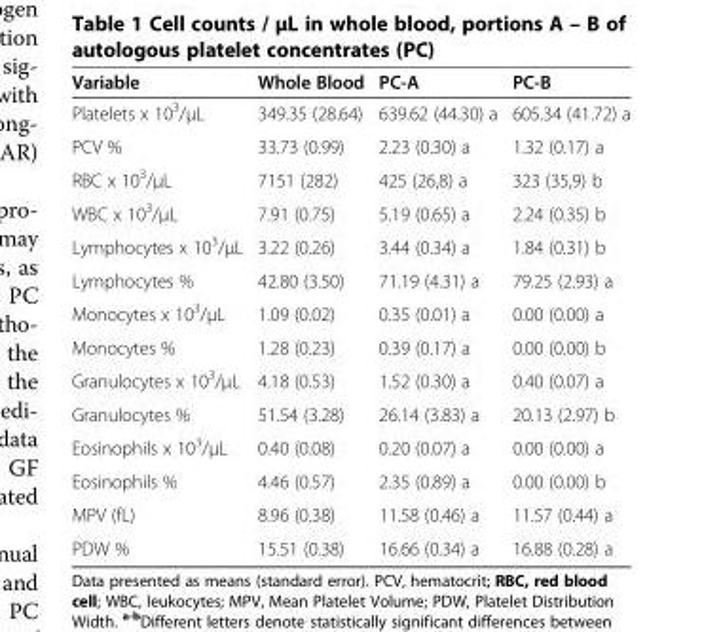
<table><thead><tr><td>Variable</td><td>Whole Blood</td><td>PC-A</td><td>PC-B</td></tr></thead><tbody><tr><td>Platelets x 10<sup>3</sup>/μL</td><td>349.35 (28.64)</td><td>639.62 (44.30) a</td><td>605.34 (41.72) a</td></tr><tr><td>PCV %</td><td>33.73 (0.99)</td><td>2.23 (0.30) a</td><td>1.32 (0.17) a</td></tr><tr><td>RBC x 10<sup>3</sup>/μL</td><td>7151 (282)</td><td>425 (26,8) a</td><td>323 (35,9) b</td></tr><tr><td>WBC x 10<sup>3</sup>/μL</td><td>7.91 (0.75)</td><td>5.19 (0.65) a</td><td>2.24 (0.35) b</td></tr><tr><td>Lymphocytes x 10<sup>3</sup>/μL</td><td>3.22 (0.26)</td><td>3.44 (0.34) a</td><td>1.84 (0.31) b</td></tr><tr><td>Lymphocytes %</td><td>42.80 (3.50)</td><td>71.19 (4.31) a</td><td>79.25 (2.93) a</td></tr><tr><td>Monocytes x 10<sup>3</sup>/μL</td><td>1.09 (0.02)</td><td>0.35 (0.01) a</td><td>0.00 (0.00) a</td></tr><tr><td>Monocytes %</td><td>1.28 (0.23)</td><td>0.39 (0.17) a</td><td>0.00 (0.00) b</td></tr><tr><td>Granulocytes x 10<sup>3</sup>/μL</td><td>4.18 (0.53)</td><td>1.52 (0.30) a</td><td>0.40 (0.07) a</td></tr><tr><td>Granulocytes %</td><td>51.54 (3.28)</td><td>26.14 (3.83) a</td><td>20.13 (2.97) b</td></tr><tr><td>Eosinophils x 10<sup>3</sup>/μL</td><td>0.40 (0.08)</td><td>0.20 (0.07) a</td><td>0.00 (0.00) a</td></tr><tr><td>Eosinophils %</td><td>4.46 (0.57)</td><td>2.35 (0.89) a</td><td>0.00 (0.00) b</td></tr><tr><td>MPV (fL)</td><td>8.96 (0.38)</td><td>11.58 (0.46) a</td><td>11.57 (0.44) a</td></tr><tr><td>PDW %</td><td>15.51 (0.38)</td><td>16.66 (0.34) a</td><td>16.88 (0.28) a</td></tr></tbody></table>